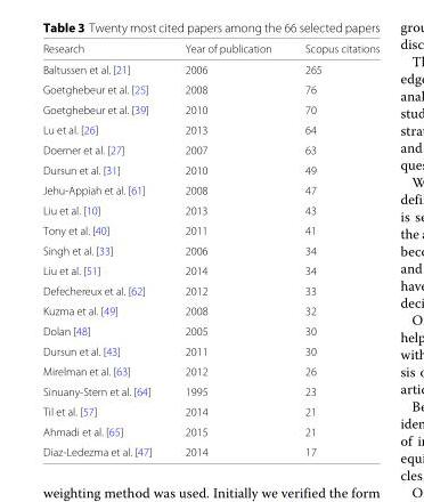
<table><thead><tr><td>Research</td><td>Year of publication</td><td>Scopus citations</td></tr></thead><tbody><tr><td>Baltussen et al. [21]</td><td>2006</td><td>265</td></tr><tr><td>Goetghebeur et al. [25]</td><td>2008</td><td>76</td></tr><tr><td>Goetghebeur et al. [39]</td><td>2010</td><td>70</td></tr><tr><td>Lu et al. [26]</td><td>2013</td><td>64</td></tr><tr><td>Doerner et al. [27]</td><td>2007</td><td>63</td></tr><tr><td>Dursun et al. [31]</td><td>2010</td><td>49</td></tr><tr><td>Jehu-Appiah et al. [61]</td><td>2008</td><td>47</td></tr><tr><td>Liu et al. [10]</td><td>2013</td><td>43</td></tr><tr><td>Tony et al. [40]</td><td>2011</td><td>41</td></tr><tr><td>Singh et al. [33]</td><td>2006</td><td>34</td></tr><tr><td>Liu et al. [51]</td><td>2014</td><td>34</td></tr><tr><td>Defechereux et al. [62]</td><td>2012</td><td>33</td></tr><tr><td>Kuzma et al. [49]</td><td>2008</td><td>32</td></tr><tr><td>Dolan [48]</td><td>2005</td><td>30</td></tr><tr><td>Dursun et al. [43]</td><td>2011</td><td>30</td></tr><tr><td>Mirelman et al. [63]</td><td>2012</td><td>26</td></tr><tr><td>Sinuany-Stern et al. [64]</td><td>1995</td><td>23</td></tr><tr><td>Til et al. [57]</td><td>2014</td><td>21</td></tr><tr><td>Ahmadi et al. [65]</td><td>2015</td><td>21</td></tr><tr><td>Diaz-Ledezma et al. [47]</td><td>2014</td><td>17</td></tr></tbody></table>